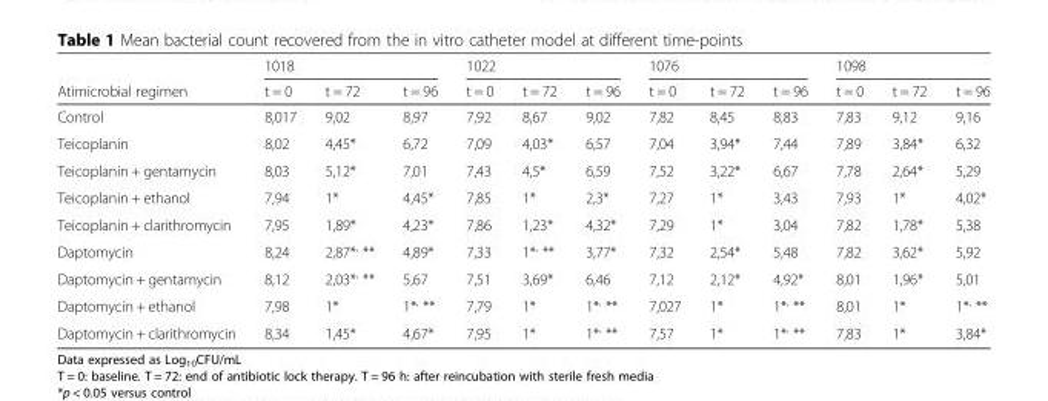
<table><thead><tr><td rowspan="2">Atimicrobial regimen</td><td colspan="3">1018</td><td colspan="3">1022</td><td colspan="3">1076</td><td colspan="3">1098</td></tr><tr><td>t = 0</td><td>t = 72</td><td>t = 96</td><td>t = 0</td><td>t = 72</td><td>t = 96</td><td>t = 0</td><td>t = 72</td><td>t = 96</td><td>t = 0</td><td>t = 72</td><td>t = 96</td></tr></thead><tbody><tr><td>Control</td><td>8,017</td><td>9,02</td><td>8,97</td><td>7,92</td><td>8,67</td><td>9,02</td><td>7,82</td><td>8,45</td><td>8,83</td><td>7,83</td><td>9,12</td><td>9,16</td></tr><tr><td>Teicoplanin</td><td>8,02</td><td>4,45*</td><td>6,72</td><td>7,09</td><td>4,03*</td><td>6,57</td><td>7,04</td><td>3,94*</td><td>7,44</td><td>7,89</td><td>3,84*</td><td>6,32</td></tr><tr><td>Teicoplanin + gentamycin</td><td>8,03</td><td>5,12*</td><td>7,01</td><td>7,43</td><td>4,5*</td><td>6,59</td><td>7,52</td><td>3,22*</td><td>6,67</td><td>7,78</td><td>2,64*</td><td>5,29</td></tr><tr><td>Teicoplanin + ethanol</td><td>7,94</td><td>1*</td><td>4,45*</td><td>7,85</td><td>1*</td><td>2,3*</td><td>7,27</td><td>1*</td><td>3,43</td><td>7,93</td><td>1*</td><td>4,02*</td></tr><tr><td>Teicoplanin + clarithromycin</td><td>7,95</td><td>1,89*</td><td>4,23*</td><td>7,86</td><td>1,23*</td><td>4,32*</td><td>7,29</td><td>1*</td><td>3,04</td><td>7,82</td><td>1,78*</td><td>5,38</td></tr><tr><td>Daptomycin</td><td>8,24</td><td>2,87*<sup>,</sup> **</td><td>4,89*</td><td>7,33</td><td>1*<sup>,</sup> **</td><td>3,77*</td><td>7,32</td><td>2,54*</td><td>5,48</td><td>7,82</td><td>3,62*</td><td>5,92</td></tr><tr><td>Daptomycin + gentamycin</td><td>8,12</td><td>2,03*<sup>,</sup> **</td><td>5,67</td><td>7,51</td><td>3,69*</td><td>6,46</td><td>7,12</td><td>2,12*</td><td>4,92*</td><td>8,01</td><td>1,96*</td><td>5,01</td></tr><tr><td>Daptomycin + ethanol</td><td>7,98</td><td>1*</td><td>1*<sup>,</sup> **</td><td>7,79</td><td>1*</td><td>1*<sup>,</sup> **</td><td>7,027</td><td>1*</td><td>1*<sup>,</sup> **</td><td>8,01</td><td>1*</td><td>1*<sup>,</sup> **</td></tr><tr><td>Daptomycin + clarithromycin</td><td>8,34</td><td>1,45*</td><td>4,67*</td><td>7,95</td><td>1*</td><td>1*<sup>,</sup> **</td><td>7,57</td><td>1*</td><td>1*<sup>,</sup> **</td><td>7,83</td><td>1*</td><td>3,84*</td></tr></tbody></table>